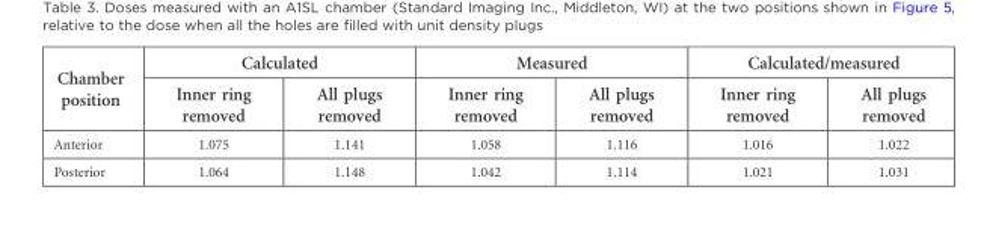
<table><thead><tr><td rowspan="2">Chamber position</td><td colspan="2">Calculated</td><td colspan="2">Measured</td><td colspan="2">Calculated/measured</td></tr><tr><td>Inner ring removed</td><td>All plugs removed</td><td>Inner ring removed</td><td>All plugs removed</td><td>Inner ring removed</td><td>All plugs removed</td></tr></thead><tbody><tr><td>Anterior</td><td>1.075</td><td>1.141</td><td>1.058</td><td>1.116</td><td>1.016</td><td>1.022</td></tr><tr><td>Posterior</td><td>1.064</td><td>1.148</td><td>1.042</td><td>1.114</td><td>1.021</td><td>1.031</td></tr></tbody></table>